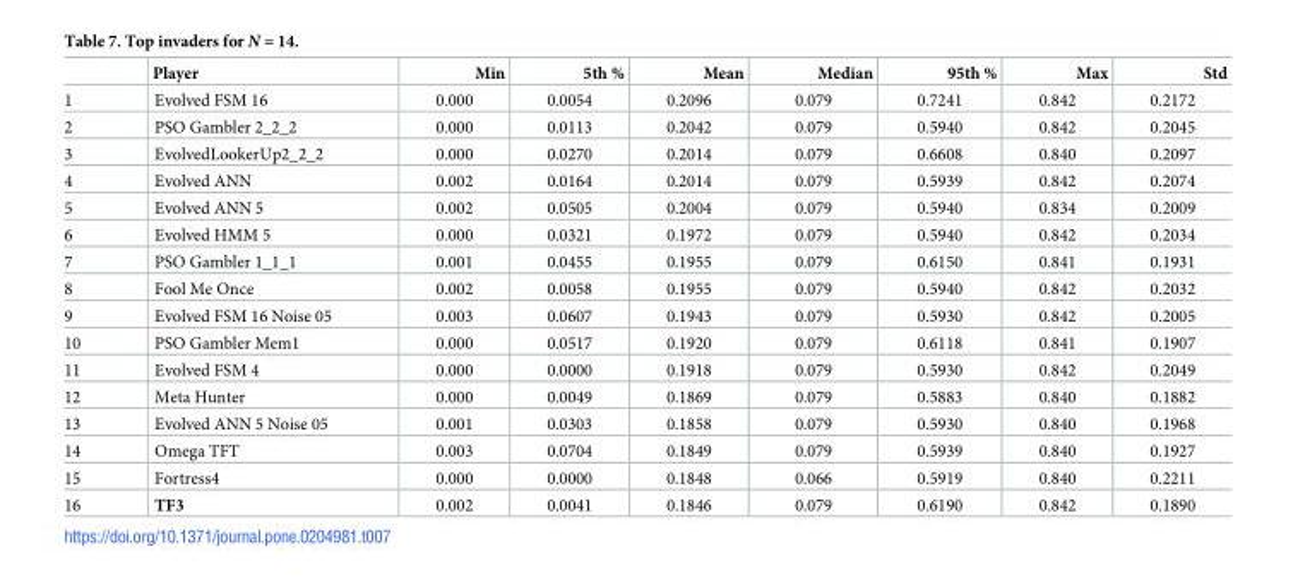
<table><thead><tr><td></td><td>Player</td><td>Min</td><td>5th %</td><td>Mean</td><td>Median</td><td>95th %</td><td>Max</td><td>Std</td></tr></thead><tbody><tr><td>1</td><td>Evolved FSM 16</td><td>0.000</td><td>0.0054</td><td>0.2096</td><td>0.079</td><td>0.7241</td><td>0.842</td><td>0.2172</td></tr><tr><td>2</td><td>PSO Gambler 2_2_2</td><td>0.000</td><td>0.0113</td><td>0.2042</td><td>0.079</td><td>0.5940</td><td>0.842</td><td>0.2045</td></tr><tr><td>3</td><td>EvolvedLookerUp2_2_2</td><td>0.000</td><td>0.0270</td><td>0.2014</td><td>0.079</td><td>0.6608</td><td>0.840</td><td>0.2097</td></tr><tr><td>4</td><td>Evolved ANN</td><td>0.002</td><td>0.0164</td><td>0.2014</td><td>0.079</td><td>0.5939</td><td>0.842</td><td>0.2074</td></tr><tr><td>5</td><td>Evolved ANN 5</td><td>0.002</td><td>0.0505</td><td>0.2004</td><td>0.079</td><td>0.5940</td><td>0.834</td><td>0.2009</td></tr><tr><td>6</td><td>Evolved HMM 5</td><td>0.000</td><td>0.0321</td><td>0.1972</td><td>0.079</td><td>0.5940</td><td>0.842</td><td>0.2034</td></tr><tr><td>7</td><td>PSO Gambler 1_1_1</td><td>0.001</td><td>0.0455</td><td>0.1955</td><td>0.079</td><td>0.6150</td><td>0.841</td><td>0.1931</td></tr><tr><td>8</td><td>Fool Me Once</td><td>0.002</td><td>0.0058</td><td>0.1955</td><td>0.079</td><td>0.5940</td><td>0.842</td><td>0.2032</td></tr><tr><td>9</td><td>Evolved FSM 16 Noise 05</td><td>0.003</td><td>0.0607</td><td>0.1943</td><td>0.079</td><td>0.5930</td><td>0.842</td><td>0.2005</td></tr><tr><td>10</td><td>PSO Gambler Mem1</td><td>0.000</td><td>0.0517</td><td>0.1920</td><td>0.079</td><td>0.6118</td><td>0.841</td><td>0.1907</td></tr><tr><td>11</td><td>Evolved FSM 4</td><td>0.000</td><td>0.0000</td><td>0.1918</td><td>0.079</td><td>0.5930</td><td>0.842</td><td>0.2049</td></tr><tr><td>12</td><td>Meta Hunter</td><td>0.000</td><td>0.0049</td><td>0.1869</td><td>0.079</td><td>0.5883</td><td>0.840</td><td>0.1882</td></tr><tr><td>13</td><td>Evolved ANN 5 Noise 05</td><td>0.001</td><td>0.0303</td><td>0.1858</td><td>0.079</td><td>0.5930</td><td>0.840</td><td>0.1968</td></tr><tr><td>14</td><td>Omega TFT</td><td>0.003</td><td>0.0704</td><td>0.1849</td><td>0.079</td><td>0.5939</td><td>0.840</td><td>0.1927</td></tr><tr><td>15</td><td>Fortress4</td><td>0.000</td><td>0.0000</td><td>0.1848</td><td>0.066</td><td>0.5919</td><td>0.840</td><td>0.2211</td></tr><tr><td>16</td><td>TF3</td><td>0.002</td><td>0.0041</td><td>0.1846</td><td>0.079</td><td>0.6190</td><td>0.842</td><td>0.1890</td></tr></tbody></table>